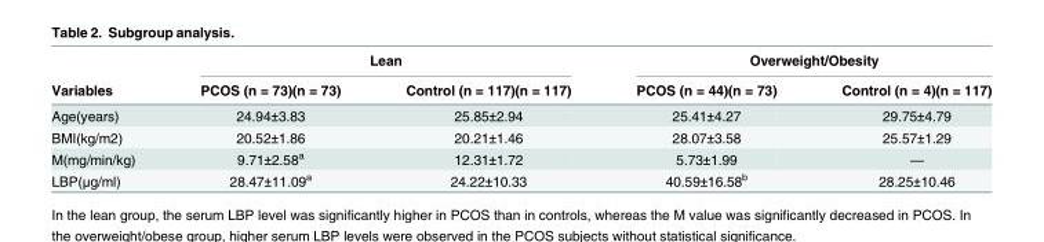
<table><thead><tr><td rowspan="2">Variables</td><td colspan="2">Lean</td><td colspan="2">Overweight/Obesity</td></tr><tr><td>PCOS (n = 73)(n = 73)</td><td>Control (n = 117)(n = 117)</td><td>PCOS (n = 44)(n = 73)</td><td>Control (n = 4)(n = 117)</td></tr></thead><tbody><tr><td>Age(years)</td><td>24.94±3.83</td><td>25.85±2.94</td><td>25.41±4.27</td><td>29.75±4.79</td></tr><tr><td>BMI(kg/m2)</td><td>20.52±1.86</td><td>20.21±1.46</td><td>28.07±3.58</td><td>25.57±1.29</td></tr><tr><td>M(mg/min/kg)</td><td>9.71±2.58<sup>a</sup></td><td>12.31±1.72</td><td>5.73±1.99</td><td>—</td></tr><tr><td>LBP(μg/ml)</td><td>28.47±11.09<sup>a</sup></td><td>24.22±10.33</td><td>40.59±16.58<sup>b</sup></td><td>28.25±10.46</td></tr></tbody></table>